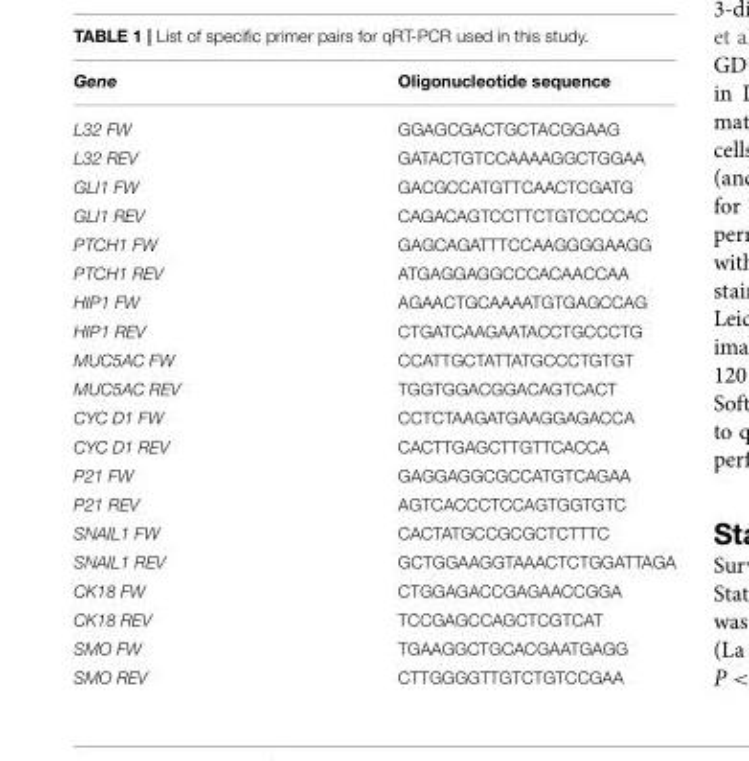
<table><thead><tr><td>Gene</td><td>Oligonucleotide sequence</td></tr></thead><tbody><tr><td>L32 FW</td><td>GGAGCGACTGCTACGGAAG</td></tr><tr><td>L32 REV</td><td>GATACTGTCCAAAAGGCTGGAA</td></tr><tr><td>GLI1 FW</td><td>GACGCCATGTTCAACTCGATG</td></tr><tr><td>GLI1 REV</td><td>CAGACAGTCCTTCTGTCCCCAC</td></tr><tr><td>PTCH1 FW</td><td>GAGCAGATTTCCAAGGGGAAGG</td></tr><tr><td>PTCH1 REV</td><td>ATGAGGAGGCCCACAACCAA</td></tr><tr><td>HIP1 FW</td><td>AGAACTGCAAAATGTGAGCCAG</td></tr><tr><td>HIP1 REV</td><td>CTGATCAAGAATACCTGCCCTG</td></tr><tr><td>MUC5AC FW</td><td>CCATTGCTATTATGCCCTGTGT</td></tr><tr><td>MUC5AC REV</td><td>TGGTGGACGGACAGTCACT</td></tr><tr><td>CYC D1 FW</td><td>CCTCTAAGATGAAGGAGACCA</td></tr><tr><td>CYC D1 REV</td><td>CACTTGAGCTTGTTCACCA</td></tr><tr><td>P21 FW</td><td>GAGGAGGCGCCATGTCAGAA</td></tr><tr><td>P21 REV</td><td>AGTCACCCTCCAGTGGTGTC</td></tr><tr><td>SNAIL1 FW</td><td>CACTATGCCGCGCTCTTTC</td></tr><tr><td>SNAIL1 REV</td><td>GCTGGAAGGTAAACTCTGGATTAGA</td></tr><tr><td>CK18 FW</td><td>CTGGAGACCGAGAACCGGA</td></tr><tr><td>CK18 REV</td><td>TCCGAGCCAGCTCGTCAT</td></tr><tr><td>SMO FW</td><td>TGAAGGCTGCACGAATGAGG</td></tr><tr><td>SMO REV</td><td>CTTGGGGTTGTCTGTCCGAA</td></tr></tbody></table>